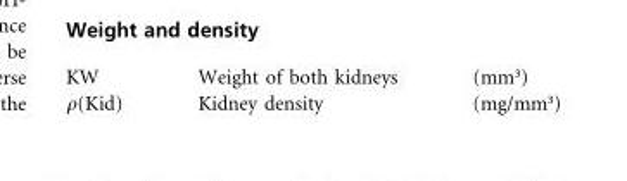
<table><tbody><tr><td>KW</td><td>Weight of both kidneys</td><td>(mm³)</td></tr><tr><td>ρ(Kid)</td><td>Kidney density</td><td>(mg/mm³)</td></tr></tbody></table>